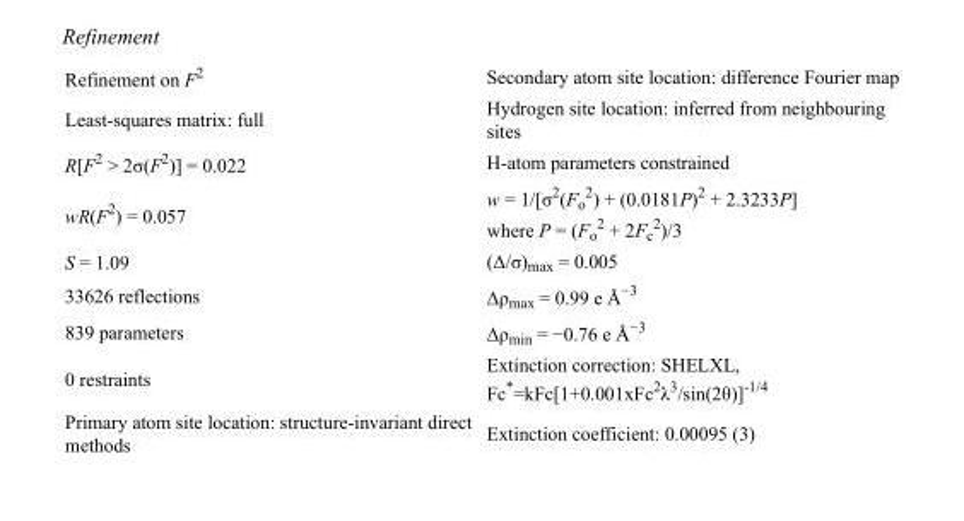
<table><tbody><tr><td>Refinement on F<sup>2</sup></td><td>Secondary atom site location: difference Fourier map</td></tr><tr><td>Least-squares matrix: full</td><td>Hydrogen site location: inferred from neighbouring sites</td></tr><tr><td>R[F<sup>2</sup> &gt; 2σ(F<sup>2</sup>)] = 0.022</td><td>H-atom parameters constrained</td></tr><tr><td>wR(F<sup>2</sup>) = 0.057</td><td>w = 1/[σ<sup>2</sup>(F<sub>o</sub> <sup>2</sup>) + (0.0181P)<sup>2</sup> + 2.3233P] where P = (F<sub>o</sub> <sup>2</sup> + 2F<sub>c</sub> <sup>2</sup>)/3</td></tr><tr><td>S = 1.09</td><td>(Δ/σ)<sub>max</sub> = 0.005</td></tr><tr><td>33626 reflections</td><td>Δρ<sub>max</sub> = 0.99 e Å<sup>−3</sup></td></tr><tr><td>839 parameters</td><td>Δρ<sub>min</sub> = −0.76 e Å<sup>−3</sup></td></tr><tr><td>0 restraints</td><td>Extinction correction: SHELXL, Fc*=kFc[1+0.001xFc<sup>2</sup>λ<sup>3</sup>/sin(2θ)]<sup>-1/4</sup></td></tr><tr><td>Primary atom site location: structure-invariant direct methods</td><td>Extinction coefficient: 0.00095 (3)</td></tr></tbody></table>